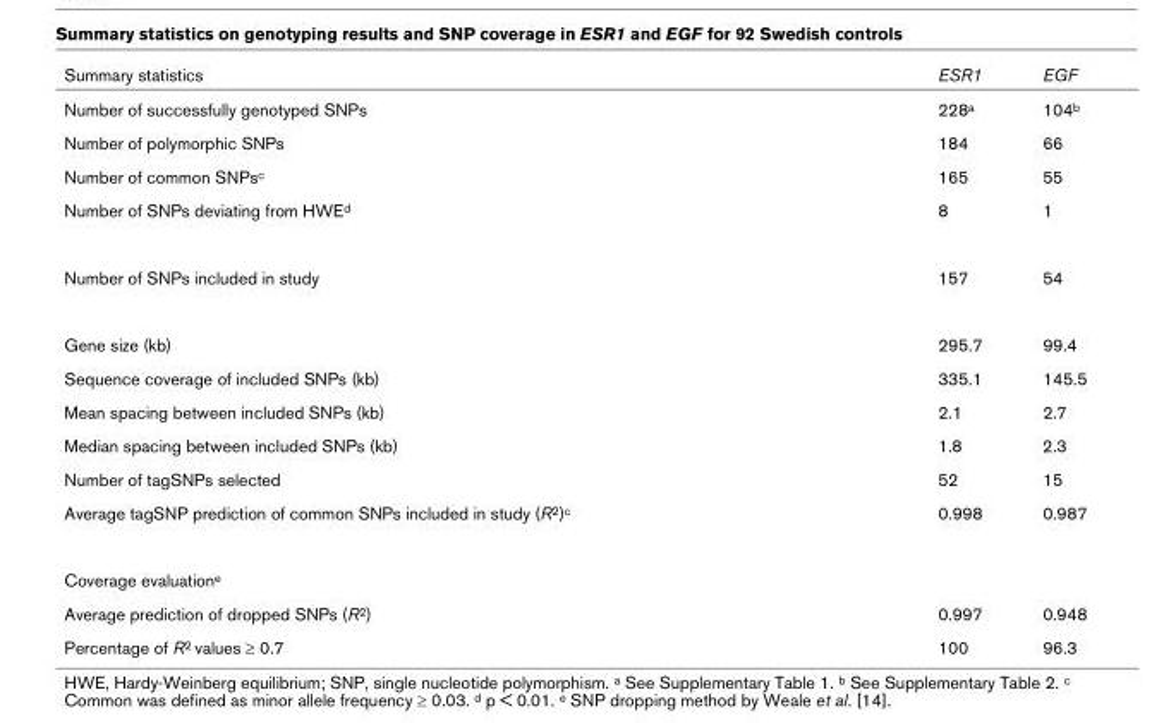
<table><thead><tr><td>Summary statistics</td><td>ESR1</td><td>EGF</td></tr></thead><tbody><tr><td>Number of successfully genotyped SNPs</td><td>228<sup>a</sup></td><td>104<sup>b</sup></td></tr><tr><td>Number of polymorphic SNPs</td><td>184</td><td>66</td></tr><tr><td>Number of common SNPs<sup>c</sup></td><td>165</td><td>55</td></tr><tr><td>Number of SNPs deviating from HWE<sup>d</sup></td><td>8</td><td>1</td></tr><tr><td>Number of SNPs included in study</td><td>157</td><td>54</td></tr><tr><td>Gene size (kb)</td><td>295.7</td><td>99.4</td></tr><tr><td>Sequence coverage of included SNPs (kb)</td><td>335.1</td><td>145.5</td></tr><tr><td>Mean spacing between included SNPs (kb)</td><td>2.1</td><td>2.7</td></tr><tr><td>Median spacing between included SNPs (kb)</td><td>1.8</td><td>2.3</td></tr><tr><td>Number of tagSNPs selected</td><td>52</td><td>15</td></tr><tr><td>Average tagSNP prediction of common SNPs included in study (R<sup>2</sup>)<sup>c</sup></td><td>0.998</td><td>0.987</td></tr><tr><td colspan="3">Coverage evaluation<sup>e</sup></td></tr><tr><td>Average prediction of dropped SNPs (R<sup>2</sup>)</td><td>0.997</td><td>0.948</td></tr><tr><td>Percentage of R<sup>2</sup> values ≥ 0.7</td><td>100</td><td>96.3</td></tr></tbody></table>